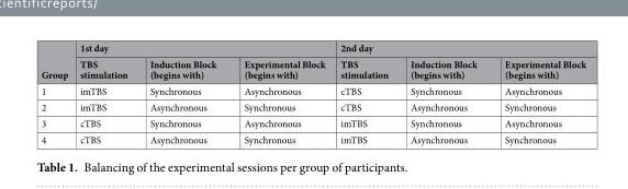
<table><thead><tr><td rowspan="2">Group</td><td colspan="3">1st day</td><td colspan="3">2nd day</td></tr><tr><td>TBS stimulation</td><td>Induction Block (begins with)</td><td>Experimental Block (begins with)</td><td>TBS stimulation</td><td>Induction Block (begins with)</td><td>Experimental Block (begins with)</td></tr></thead><tbody><tr><td>1</td><td>imTBS</td><td>Synchronous</td><td>Asynchronous</td><td>cTBS</td><td>Synchronous</td><td>Asynchronous</td></tr><tr><td>2</td><td>imTBS</td><td>Asynchronous</td><td>Synchronous</td><td>cTBS</td><td>Asynchronous</td><td>Synchronous</td></tr><tr><td>3</td><td>cTBS</td><td>Synchronous</td><td>Asynchronous</td><td>imTBS</td><td>Synchronous</td><td>Asynchronous</td></tr><tr><td>4</td><td>cTBS</td><td>Asynchronous</td><td>Synchronous</td><td>imTBS</td><td>Asynchronous</td><td>Synchronous</td></tr></tbody></table>